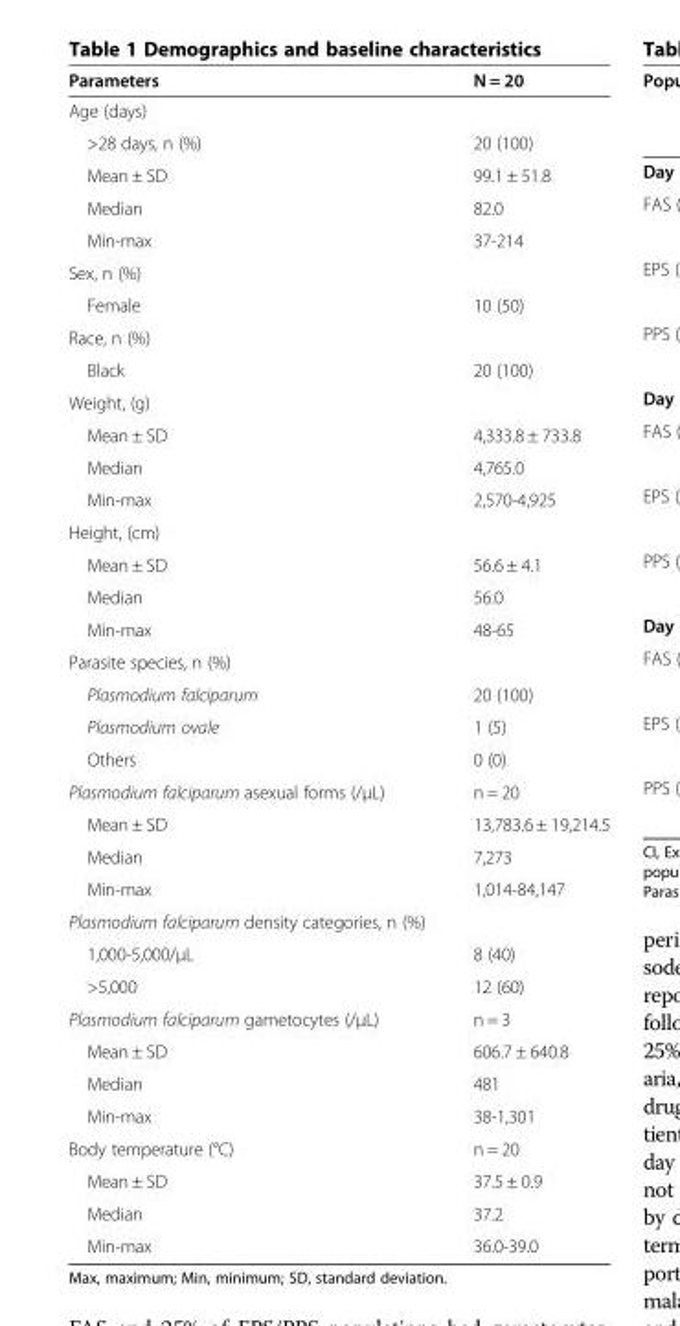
<table><thead><tr><td>Parameters</td><td>N = 20</td></tr></thead><tbody><tr><td colspan="2">Age (days)</td></tr><tr><td>&gt;28 days, n (%)</td><td>20 (100)</td></tr><tr><td>Mean ± SD</td><td>99.1 ± 51.8</td></tr><tr><td>Median</td><td>82.0</td></tr><tr><td>Min-max</td><td>37-214</td></tr><tr><td colspan="2">Sex, n (%)</td></tr><tr><td>Female</td><td>10 (50)</td></tr><tr><td colspan="2">Race, n (%)</td></tr><tr><td>Black</td><td>20 (100)</td></tr><tr><td colspan="2">Weight, (g)</td></tr><tr><td>Mean ± SD</td><td>4,333.8 ± 733.8</td></tr><tr><td>Median</td><td>4,765.0</td></tr><tr><td>Min-max</td><td>2,570-4,925</td></tr><tr><td colspan="2">Height, (cm)</td></tr><tr><td>Mean ± SD</td><td>56.6 ± 4.1</td></tr><tr><td>Median</td><td>56.0</td></tr><tr><td>Min-max</td><td>48-65</td></tr><tr><td colspan="2">Parasite species, n (%)</td></tr><tr><td>Plasmodium falciparum</td><td>20 (100)</td></tr><tr><td>Plasmodium ovale</td><td>1 (5)</td></tr><tr><td>Others</td><td>0 (0)</td></tr><tr><td>Plasmodium falciparum asexual forms (/μL)</td><td>n = 20</td></tr><tr><td>Mean ± SD</td><td>13,783.6 ± 19,214.5</td></tr><tr><td>Median</td><td>7,273</td></tr><tr><td>Min-max</td><td>1,014-84,147</td></tr><tr><td colspan="2">Plasmodium falciparum density categories, n (%)</td></tr><tr><td>1,000-5,000/μL</td><td>8 (40)</td></tr><tr><td>&gt;5,000</td><td>12 (60)</td></tr><tr><td>Plasmodium falciparum gametocytes (/μL)</td><td>n = 3</td></tr><tr><td>Mean ± SD</td><td>606.7 ± 640.8</td></tr><tr><td>Median</td><td>481</td></tr><tr><td>Min-max</td><td>38-1,301</td></tr><tr><td>Body temperature (°C)</td><td>n = 20</td></tr><tr><td>Mean ± SD</td><td>37.5 ± 0.9</td></tr><tr><td>Median</td><td>37.2</td></tr><tr><td>Min-max</td><td>36.0-39.0</td></tr></tbody></table>